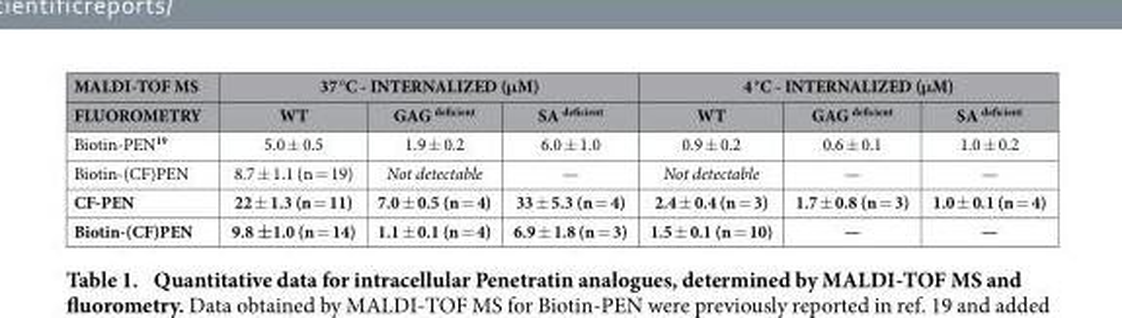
<table><thead><tr><td rowspan="2">MALDI-TOF MS FLUOROMETRY</td><td colspan="3">37 °C - INTERNALIZED (μM)</td><td colspan="3">4 °C - INTERNALIZED (μM)</td></tr><tr><td>WT</td><td>GAG <sup>deficient</sup></td><td>SA <sup>deficient</sup></td><td>WT</td><td>GAG <sup>deficient</sup></td><td>SA <sup>deficient</sup></td></tr></thead><tbody><tr><td>Biotin-PEN<sup>19</sup></td><td>5.0 ± 0.5</td><td>1.9 ± 0.2</td><td>6.0 ± 1.0</td><td>0.9 ± 0.2</td><td>0.6 ± 0.1</td><td>1.0 ± 0.2</td></tr><tr><td>Biotin-(CF)PEN</td><td>8.7 ± 1.1 (n = 19)</td><td>Not detectable</td><td>—</td><td>Not detectable</td><td>—</td><td>—</td></tr><tr><td>CF-PEN</td><td>22 ± 1.3 (n = 11)</td><td>7.0 ± 0.5 (n = 4)</td><td>33 ± 5.3 (n = 4)</td><td>2.4 ± 0.4 (n = 3)</td><td>1.7 ± 0.8 (n = 3)</td><td>1.0 ± 0.1 (n = 4)</td></tr><tr><td>Biotin-(CF)PEN</td><td>9.8 ±1.0 (n = 14)</td><td>1.1 ± 0.1 (n = 4)</td><td>6.9 ± 1.8 (n = 3)</td><td>1.5 ± 0.1 (n = 10)</td><td>—</td><td>—</td></tr></tbody></table>